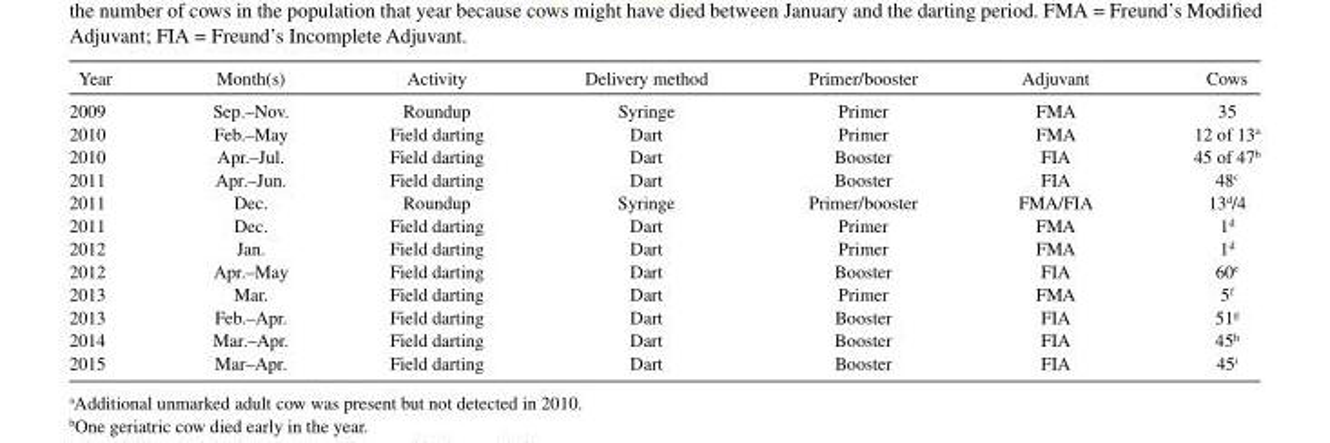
<table><thead><tr><td>Year</td><td>Month(s)</td><td>Activity</td><td>Delivery method</td><td>Primer/booster</td><td>Adjuvant</td><td>Cows</td></tr></thead><tbody><tr><td>2009</td><td>Sep.–Nov.</td><td>Roundup</td><td>Syringe</td><td>Primer</td><td>FMA</td><td>35</td></tr><tr><td>2010</td><td>Feb.–May</td><td>Field darting</td><td>Dart</td><td>Primer</td><td>FMA</td><td>12 of 13<sup>a</sup></td></tr><tr><td>2010</td><td>Apr.–Jul.</td><td>Field darting</td><td>Dart</td><td>Booster</td><td>FIA</td><td>45 of 47<sup>b</sup></td></tr><tr><td>2011</td><td>Apr.–Jun.</td><td>Field darting</td><td>Dart</td><td>Booster</td><td>FIA</td><td>48<sup>c</sup></td></tr><tr><td>2011</td><td>Dec.</td><td>Roundup</td><td>Syringe</td><td>Primer/booster</td><td>FMA/FIA</td><td>13<sup>d</sup>/4</td></tr><tr><td>2011</td><td>Dec.</td><td>Field darting</td><td>Dart</td><td>Primer</td><td>FMA</td><td>1<sup>d</sup></td></tr><tr><td>2012</td><td>Jan.</td><td>Field darting</td><td>Dart</td><td>Primer</td><td>FMA</td><td>1<sup>d</sup></td></tr><tr><td>2012</td><td>Apr.–May</td><td>Field darting</td><td>Dart</td><td>Booster</td><td>FIA</td><td>60<sup>e</sup></td></tr><tr><td>2013</td><td>Mar.</td><td>Field darting</td><td>Dart</td><td>Primer</td><td>FMA</td><td>5<sup>f</sup></td></tr><tr><td>2013</td><td>Feb.–Apr.</td><td>Field darting</td><td>Dart</td><td>Booster</td><td>FIA</td><td>51<sup>g</sup></td></tr><tr><td>2014</td><td>Mar.–Apr.</td><td>Field darting</td><td>Dart</td><td>Booster</td><td>FIA</td><td>45<sup>h</sup></td></tr><tr><td>2015</td><td>Mar–Apr.</td><td>Field darting</td><td>Dart</td><td>Booster</td><td>FIA</td><td>45<sup>i</sup></td></tr></tbody></table>